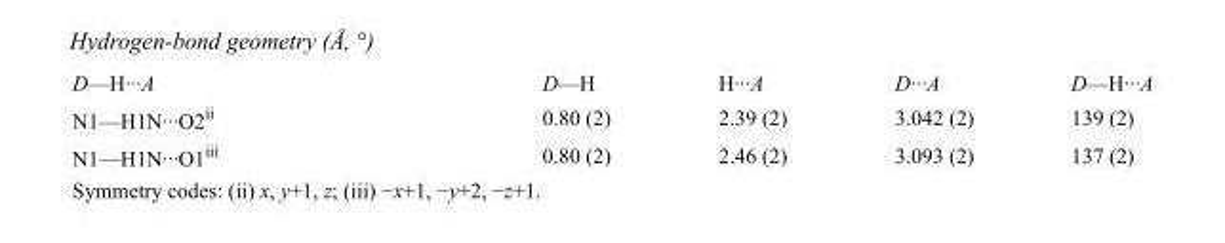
<table><tbody><tr><td>D—H···A</td><td>D—H</td><td>H···A</td><td>D···A</td><td>D—H···A</td></tr><tr><td>N1—H1N···O2<sup>ii</sup></td><td>0.80 (2)</td><td>2.39 (2)</td><td>3.042 (2)</td><td>139 (2)</td></tr><tr><td>N1—H1N···O1<sup>iii</sup></td><td>0.80 (2)</td><td>2.46 (2)</td><td>3.093 (2)</td><td>137 (2)</td></tr></tbody></table>